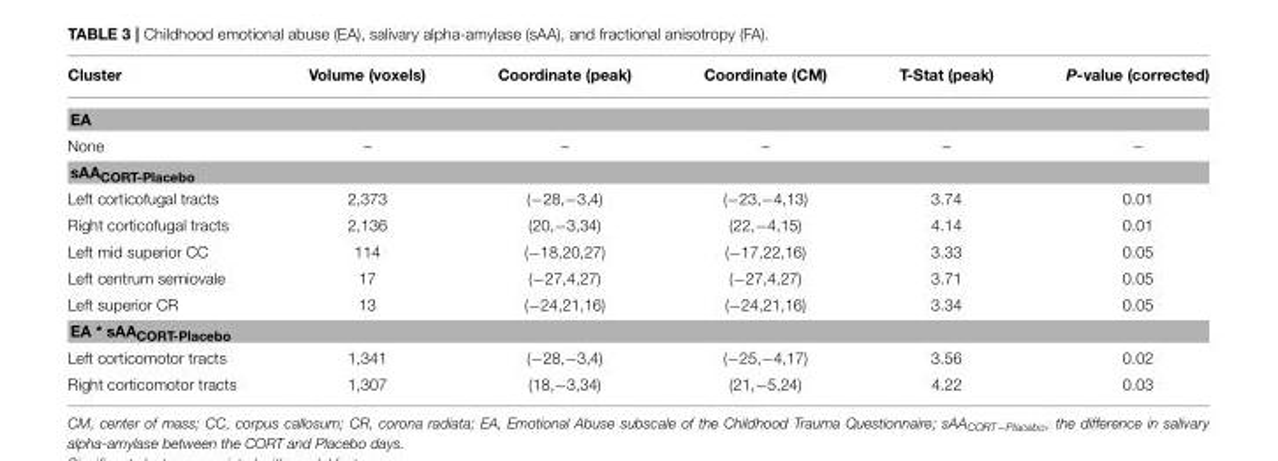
<table><thead><tr><td>Cluster</td><td>Volume (voxels)</td><td>Coordinate (peak)</td><td>Coordinate (CM)</td><td>T-Stat (peak)</td><td>P-value (corrected)</td></tr></thead><tbody><tr><td colspan="6">EA</td></tr><tr><td>None</td><td>–</td><td>–</td><td>–</td><td>–</td><td>–</td></tr><tr><td colspan="6">sAA<sub>CORT-Placebo</sub></td></tr><tr><td>Left corticofugal tracts</td><td>2,373</td><td>(−28,−3,4)</td><td>(−23,−4,13)</td><td>3.74</td><td>0.01</td></tr><tr><td>Right corticofugal tracts</td><td>2,136</td><td>(20,−3,34)</td><td>(22,−4,15)</td><td>4.14</td><td>0.01</td></tr><tr><td>Left mid superior CC</td><td>114</td><td>(−18,20,27)</td><td>(−17,22,16)</td><td>3.33</td><td>0.05</td></tr><tr><td>Left centrum semiovale</td><td>17</td><td>(−27,4,27)</td><td>(−27,4,27)</td><td>3.71</td><td>0.05</td></tr><tr><td>Left superior CR</td><td>13</td><td>(−24,21,16)</td><td>(−24,21,16)</td><td>3.34</td><td>0.05</td></tr><tr><td colspan="6">EA * sAA<sub>CORT-Placebo</sub></td></tr><tr><td>Left corticomotor tracts</td><td>1,341</td><td>(−28,−3,4)</td><td>(−25,−4,17)</td><td>3.56</td><td>0.02</td></tr><tr><td>Right corticomotor tracts</td><td>1,307</td><td>(18,−3,34)</td><td>(21,−5,24)</td><td>4.22</td><td>0.03</td></tr></tbody></table>